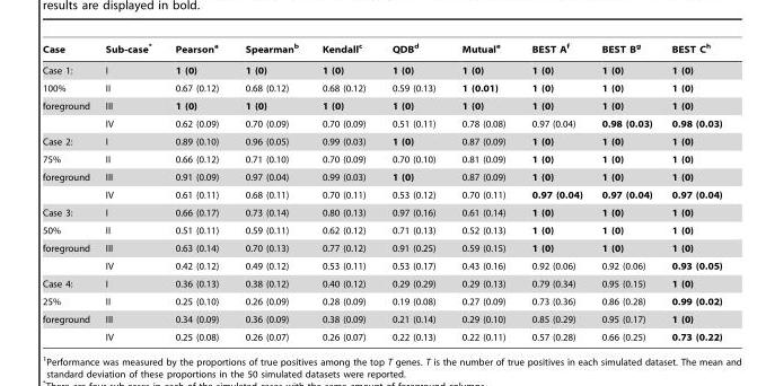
<table><thead><tr><td>Case</td><td>Sub-case*</td><td>Pearson<sup>a</sup></td><td>Spearman<sup>b</sup></td><td>Kendall<sup>c</sup></td><td>QDB<sup>d</sup></td><td>Mutual<sup>e</sup></td><td>BEST A<sup>f</sup></td><td>BEST B<sup>g</sup></td><td>BEST C<sup>h</sup></td></tr></thead><tbody><tr><td>Case 1:</td><td>I</td><td>1 (0)</td><td>1 (0)</td><td>1 (0)</td><td>1 (0)</td><td>1 (0)</td><td>1 (0)</td><td>1 (0)</td><td>1 (0)</td></tr><tr><td>100%</td><td>II</td><td>0.67 (0.12)</td><td>0.68 (0.12)</td><td>0.68 (0.12)</td><td>0.59 (0.13)</td><td>1 (0.01)</td><td>1 (0)</td><td>1 (0)</td><td>1 (0)</td></tr><tr><td rowspan="2">foreground</td><td>III</td><td>1 (0)</td><td>1 (0)</td><td>1 (0)</td><td>1 (0)</td><td>1 (0)</td><td>1 (0)</td><td>1 (0)</td><td>1 (0)</td></tr><tr><td>IV</td><td>0.62 (0.09)</td><td>0.70 (0.09)</td><td>0.70 (0.09)</td><td>0.51 (0.11)</td><td>0.78 (0.08)</td><td>0.97 (0.04)</td><td>0.98 (0.03)</td><td>0.98 (0.03)</td></tr><tr><td>Case 2:</td><td>I</td><td>0.89 (0.10)</td><td>0.96 (0.05)</td><td>0.99 (0.03)</td><td>1 (0)</td><td>0.87 (0.09)</td><td>1 (0)</td><td>1 (0)</td><td>1 (0)</td></tr><tr><td>75%</td><td>II</td><td>0.66 (0.12)</td><td>0.71 (0.10)</td><td>0.70 (0.09)</td><td>0.70 (0.10)</td><td>0.81 (0.09)</td><td>1 (0)</td><td>1 (0)</td><td>1 (0)</td></tr><tr><td rowspan="2">foreground</td><td>III</td><td>0.91 (0.09)</td><td>0.97 (0.04)</td><td>0.99 (0.03)</td><td>1 (0)</td><td>0.87 (0.09)</td><td>1 (0)</td><td>1 (0)</td><td>1 (0)</td></tr><tr><td>IV</td><td>0.61 (0.11)</td><td>0.68 (0.11)</td><td>0.70 (0.11)</td><td>0.53 (0.12)</td><td>0.70 (0.11)</td><td>0.97 (0.04)</td><td>0.97 (0.04)</td><td>0.97 (0.04)</td></tr><tr><td>Case 3:</td><td>I</td><td>0.66 (0.17)</td><td>0.73 (0.14)</td><td>0.80 (0.13)</td><td>0.97 (0.16)</td><td>0.61 (0.14)</td><td>1 (0)</td><td>1 (0)</td><td>1 (0)</td></tr><tr><td>50%</td><td>II</td><td>0.51 (0.11)</td><td>0.59 (0.11)</td><td>0.62 (0.12)</td><td>0.71 (0.13)</td><td>0.52 (0.13)</td><td>1 (0)</td><td>1 (0)</td><td>1 (0)</td></tr><tr><td rowspan="2">foreground</td><td>III</td><td>0.63 (0.14)</td><td>0.70 (0.13)</td><td>0.77 (0.12)</td><td>0.91 (0.25)</td><td>0.59 (0.15)</td><td>1 (0)</td><td>1 (0)</td><td>1 (0)</td></tr><tr><td>IV</td><td>0.42 (0.12)</td><td>0.49 (0.12)</td><td>0.53 (0.11)</td><td>0.53 (0.17)</td><td>0.43 (0.16)</td><td>0.92 (0.06)</td><td>0.92 (0.06)</td><td>0.93 (0.05)</td></tr><tr><td>Case 4:</td><td>I</td><td>0.36 (0.13)</td><td>0.38 (0.12)</td><td>0.40 (0.12)</td><td>0.29 (0.29)</td><td>0.29 (0.13)</td><td>0.79 (0.34)</td><td>0.95 (0.15)</td><td>1 (0)</td></tr><tr><td>25%</td><td>II</td><td>0.25 (0.10)</td><td>0.26 (0.09)</td><td>0.28 (0.09)</td><td>0.19 (0.08)</td><td>0.27 (0.09)</td><td>0.73 (0.36)</td><td>0.86 (0.28)</td><td>0.99 (0.02)</td></tr><tr><td rowspan="2">foreground</td><td>III</td><td>0.34 (0.09)</td><td>0.36 (0.09)</td><td>0.38 (0.09)</td><td>0.21 (0.14)</td><td>0.29 (0.10)</td><td>0.85 (0.29)</td><td>0.95 (0.17)</td><td>1 (0)</td></tr><tr><td>IV</td><td>0.25 (0.08)</td><td>0.26 (0.07)</td><td>0.26 (0.07)</td><td>0.22 (0.13)</td><td>0.22 (0.11)</td><td>0.57 (0.28)</td><td>0.66 (0.25)</td><td>0.73 (0.22)</td></tr></tbody></table>